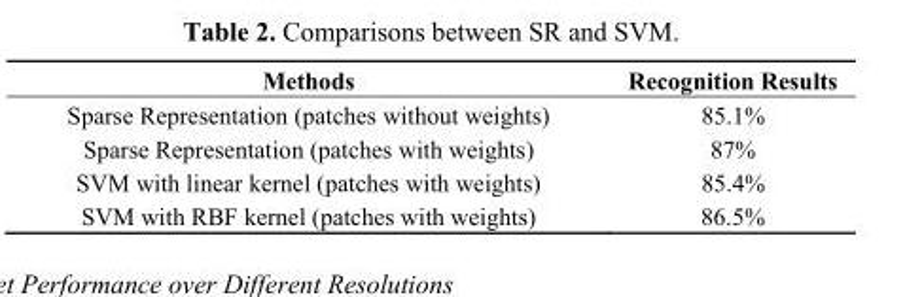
<table><thead><tr><td>Methods</td><td>Recognition Results</td></tr></thead><tbody><tr><td>Sparse Representation (patches without weights)</td><td>85.1%</td></tr><tr><td>Sparse Representation (patches with weights)</td><td>87%</td></tr><tr><td>SVM with linear kernel (patches with weights)</td><td>85.4%</td></tr><tr><td>SVM with RBF kernel (patches with weights)</td><td>86.5%</td></tr></tbody></table>